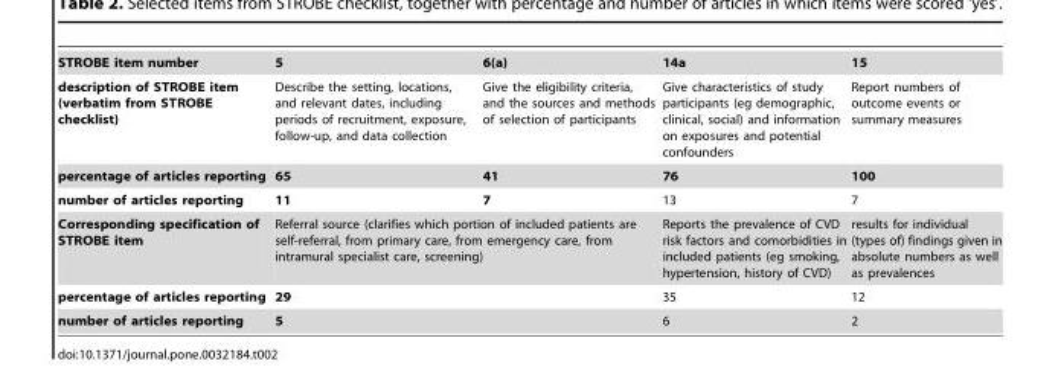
<table><tbody><tr><td>STROBE item number</td><td>5</td><td>6(a)</td><td>14a</td><td>15</td></tr><tr><td>description of STROBE item (verbatim from STROBE checklist)</td><td>Describe the setting, locations, and relevant dates, including periods of recruitment, exposure, follow-up, and data collection</td><td>Give the eligibility criteria, and the sources and methods of selection of participants</td><td>Give characteristics of study participants (eg demographic, clinical, social) and information on exposures and potential confounders</td><td>Report numbers of outcome events or summary measures</td></tr><tr><td>percentage of articles reporting</td><td>65</td><td>41</td><td>76</td><td>100</td></tr><tr><td>number of articles reporting</td><td>11</td><td>7</td><td>13</td><td>7</td></tr><tr><td>Corresponding specification of STROBE item</td><td colspan="2">Referral source (clarifies which portion of included patients are self-referral, from primary care, from emergency care, from intramural specialist care, screening)</td><td>Reports the prevalence of CVD risk factors and comorbidities in included patients (eg smoking, hypertension, history of CVD)</td><td>results for individual (types of) findings given in absolute numbers as well as prevalences</td></tr><tr><td>percentage of articles reporting</td><td colspan="2">29</td><td>35</td><td>12</td></tr><tr><td>number of articles reporting</td><td colspan="2">5</td><td>6</td><td>2</td></tr></tbody></table>